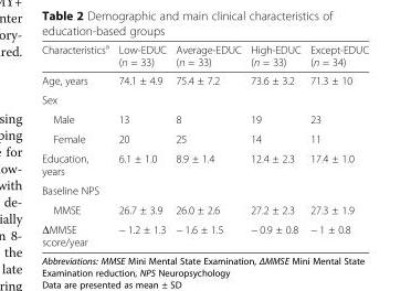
<table><thead><tr><td>Characteristics<sup>a</sup></td><td>Low-EDUC (n = 33)</td><td>Average-EDUC (n = 33)</td><td>High-EDUC (n = 33)</td><td>Except-EDUC (n = 34)</td></tr></thead><tbody><tr><td>Age, years</td><td>74.1 ± 4.9</td><td>75.4 ± 7.2</td><td>73.6 ± 3.2</td><td>71.3 ± 10</td></tr><tr><td colspan="5">Sex</td></tr><tr><td>Male</td><td>13</td><td>8</td><td>19</td><td>23</td></tr><tr><td>Female</td><td>20</td><td>25</td><td>14</td><td>11</td></tr><tr><td>Education, years</td><td>6.1 ± 1.0</td><td>8.9 ± 1.4</td><td>12.4 ± 2.3</td><td>17.4 ± 1.0</td></tr><tr><td colspan="5">Baseline NPS</td></tr><tr><td>MMSE</td><td>26.7 ± 3.9</td><td>26.0 ± 2.6</td><td>27.2 ± 2.3</td><td>27.3 ± 1.9</td></tr><tr><td>ΔMMSE score/year</td><td>− 1.2 ± 1.3</td><td>− 1.6 ± 1.5</td><td>− 0.9 ± 0.8</td><td>− 1 ± 0.8</td></tr></tbody></table>